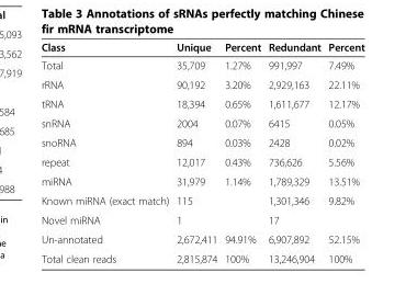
<table><thead><tr><td>Class</td><td>Unique</td><td>Percent</td><td>Redundant</td><td>Percent</td></tr></thead><tbody><tr><td>Total</td><td>35,709</td><td>1.27%</td><td>991,997</td><td>7.49%</td></tr><tr><td>rRNA</td><td>90,192</td><td>3.20%</td><td>2,929,163</td><td>22.11%</td></tr><tr><td>tRNA</td><td>18,394</td><td>0.65%</td><td>1,611,677</td><td>12.17%</td></tr><tr><td>snRNA</td><td>2004</td><td>0.07%</td><td>6415</td><td>0.05%</td></tr><tr><td>snoRNA</td><td>894</td><td>0.03%</td><td>2428</td><td>0.02%</td></tr><tr><td>repeat</td><td>12,017</td><td>0.43%</td><td>736,626</td><td>5.56%</td></tr><tr><td>miRNA</td><td>31,979</td><td>1.14%</td><td>1,789,329</td><td>13.51%</td></tr><tr><td>Known miRNA (exact match)</td><td>115</td><td></td><td>1,301,346</td><td>9.82%</td></tr><tr><td>Novel miRNA</td><td>1</td><td></td><td>17</td><td></td></tr><tr><td>Un-annotated</td><td>2,672,411</td><td>94.91%</td><td>6,907,892</td><td>52.15%</td></tr><tr><td>Total clean reads</td><td>2,815,874</td><td>100%</td><td>13,246,904</td><td>100%</td></tr></tbody></table>